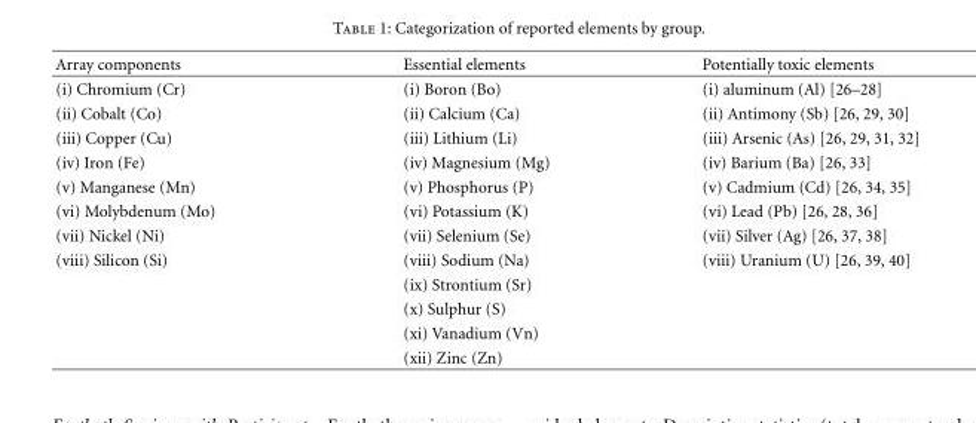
<table><thead><tr><td>Array components</td><td>Essential elements</td><td>Potentially toxic elements</td></tr></thead><tbody><tr><td>(i) Chromium (Cr)</td><td>(i) Boron (Bo)</td><td>(i) aluminum (Al) [26–28]</td></tr><tr><td>(ii) Cobalt (Co)</td><td>(ii) Calcium (Ca)</td><td>(ii) Antimony (Sb) [26, 29, 30]</td></tr><tr><td>(iii) Copper (Cu)</td><td>(iii) Lithium (Li)</td><td>(iii) Arsenic (As) [26, 29, 31, 32]</td></tr><tr><td>(iv) Iron (Fe)</td><td>(iv) Magnesium (Mg)</td><td>(iv) Barium (Ba) [26, 33]</td></tr><tr><td>(v) Manganese (Mn)</td><td>(v) Phosphorus (P)</td><td>(v) Cadmium (Cd) [26, 34, 35]</td></tr><tr><td>(vi) Molybdenum (Mo)</td><td>(vi) Potassium (K)</td><td>(vi) Lead (Pb) [26, 28, 36]</td></tr><tr><td>(vii) Nickel (Ni)</td><td>(vii) Selenium (Se)</td><td>(vii) Silver (Ag) [26, 37, 38]</td></tr><tr><td rowspan="5">(viii) Silicon (Si)</td><td>(viii) Sodium (Na)</td><td>(viii) Uranium (U) [26, 39, 40]</td></tr><tr><td>(ix) Strontium (Sr)</td><td></td></tr><tr><td>(x) Sulphur (S)</td><td></td></tr><tr><td>(xi) Vanadium (Vn)</td><td></td></tr><tr><td>(xii) Zinc (Zn)</td><td></td></tr></tbody></table>